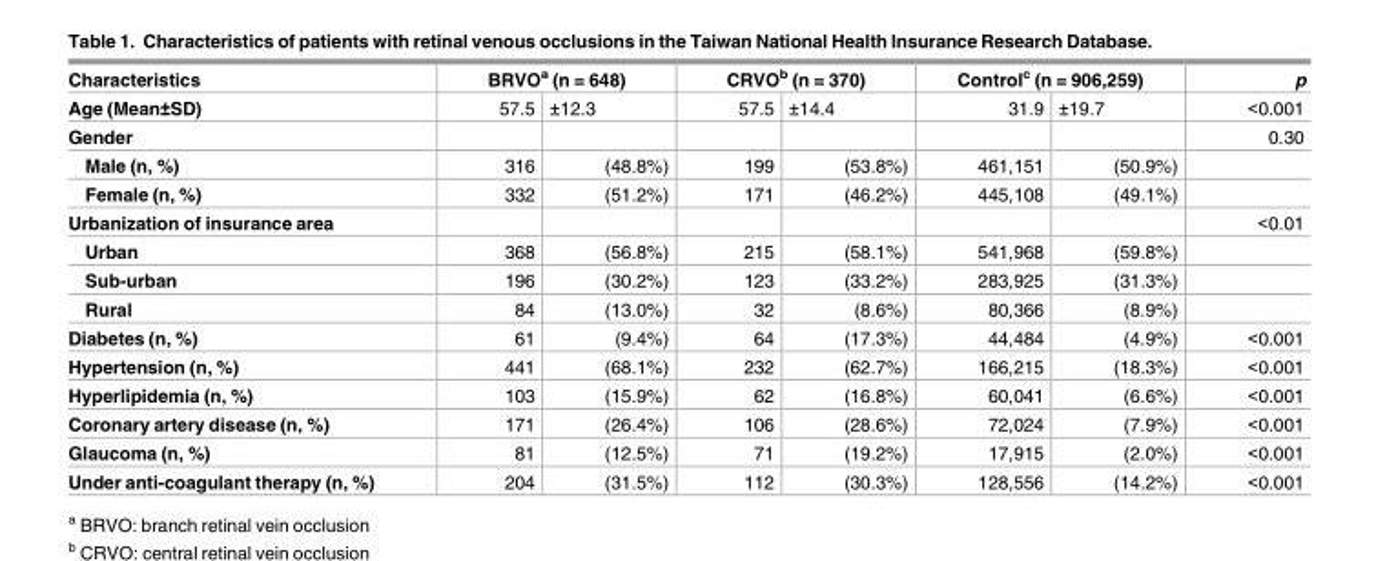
<table><thead><tr><td rowspan="2">Characteristics Age (Mean±SD)</td><td colspan="2">BRVO<sup>a</sup> (n = 648)</td><td colspan="2">CRVO<sup>b</sup> (n = 370)</td><td colspan="2">Control<sup>c</sup> (n = 906,259)</td><td rowspan="2">p &lt;0.001</td></tr><tr><td>57.5</td><td>±12.3</td><td>57.5</td><td>±14.4</td><td>31.9</td><td>±19.7</td></tr></thead><tbody><tr><td>Gender</td><td></td><td></td><td></td><td></td><td></td><td></td><td>0.30</td></tr><tr><td>Male (n, %)</td><td>316</td><td>(48.8%)</td><td>199</td><td>(53.8%)</td><td>461,151</td><td>(50.9%)</td><td></td></tr><tr><td>Female (n, %)</td><td>332</td><td>(51.2%)</td><td>171</td><td>(46.2%)</td><td>445,108</td><td>(49.1%)</td><td></td></tr><tr><td>Urbanization of insurance area</td><td></td><td></td><td></td><td></td><td></td><td></td><td>&lt;0.01</td></tr><tr><td>Urban</td><td>368</td><td>(56.8%)</td><td>215</td><td>(58.1%)</td><td>541,968</td><td>(59.8%)</td><td></td></tr><tr><td>Sub-urban</td><td>196</td><td>(30.2%)</td><td>123</td><td>(33.2%)</td><td>283,925</td><td>(31.3%)</td><td></td></tr><tr><td>Rural</td><td>84</td><td>(13.0%)</td><td>32</td><td>(8.6%)</td><td>80,366</td><td>(8.9%)</td><td></td></tr><tr><td>Diabetes (n, %)</td><td>61</td><td>(9.4%)</td><td>64</td><td>(17.3%)</td><td>44,484</td><td>(4.9%)</td><td>&lt;0.001</td></tr><tr><td>Hypertension (n, %)</td><td>441</td><td>(68.1%)</td><td>232</td><td>(62.7%)</td><td>166,215</td><td>(18.3%)</td><td>&lt;0.001</td></tr><tr><td>Hyperlipidemia (n, %)</td><td>103</td><td>(15.9%)</td><td>62</td><td>(16.8%)</td><td>60,041</td><td>(6.6%)</td><td>&lt;0.001</td></tr><tr><td>Coronary artery disease (n, %)</td><td>171</td><td>(26.4%)</td><td>106</td><td>(28.6%)</td><td>72,024</td><td>(7.9%)</td><td>&lt;0.001</td></tr><tr><td>Glaucoma (n, %)</td><td>81</td><td>(12.5%)</td><td>71</td><td>(19.2%)</td><td>17,915</td><td>(2.0%)</td><td>&lt;0.001</td></tr><tr><td>Under anti-coagulant therapy (n, %)</td><td>204</td><td>(31.5%)</td><td>112</td><td>(30.3%)</td><td>128,556</td><td>(14.2%)</td><td>&lt;0.001</td></tr></tbody></table>